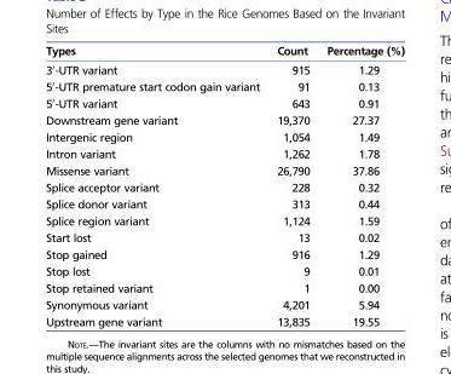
<table><thead><tr><td>Types</td><td>Count</td><td>Percentage (%)</td></tr></thead><tbody><tr><td>3′-UTR variant</td><td>915</td><td>1.29</td></tr><tr><td>5′-UTR premature start codon gain variant</td><td>91</td><td>0.13</td></tr><tr><td>5′-UTR variant</td><td>643</td><td>0.91</td></tr><tr><td>Downstream gene variant</td><td>19,370</td><td>27.37</td></tr><tr><td>Intergenic region</td><td>1,054</td><td>1.49</td></tr><tr><td>Intron variant</td><td>1,262</td><td>1.78</td></tr><tr><td>Missense variant</td><td>26,790</td><td>37.86</td></tr><tr><td>Splice acceptor variant</td><td>228</td><td>0.32</td></tr><tr><td>Splice donor variant</td><td>313</td><td>0.44</td></tr><tr><td>Splice region variant</td><td>1,124</td><td>1.59</td></tr><tr><td>Start lost</td><td>13</td><td>0.02</td></tr><tr><td>Stop gained</td><td>916</td><td>1.29</td></tr><tr><td>Stop lost</td><td>9</td><td>0.01</td></tr><tr><td>Stop retained variant</td><td>1</td><td>0.00</td></tr><tr><td>Synonymous variant</td><td>4,201</td><td>5.94</td></tr><tr><td>Upstream gene variant</td><td>13,835</td><td>19.55</td></tr></tbody></table>